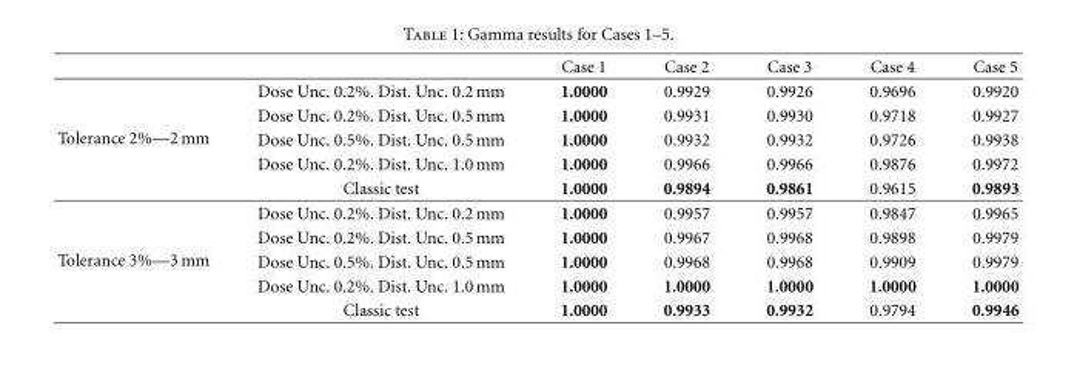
<table><thead><tr><td></td><td></td><td>Case 1</td><td>Case 2</td><td>Case 3</td><td>Case 4</td><td>Case 5</td></tr></thead><tbody><tr><td rowspan="5">Tolerance 2%—2 mm</td><td>Dose Unc. 0.2%. Dist. Unc. 0.2 mm</td><td>1.0000</td><td>0.9929</td><td>0.9926</td><td>0.9696</td><td>0.9920</td></tr><tr><td>Dose Unc. 0.2%. Dist. Unc. 0.5 mm</td><td>1.0000</td><td>0.9931</td><td>0.9930</td><td>0.9718</td><td>0.9927</td></tr><tr><td>Dose Unc. 0.5%. Dist. Unc. 0.5 mm</td><td>1.0000</td><td>0.9932</td><td>0.9932</td><td>0.9726</td><td>0.9938</td></tr><tr><td>Dose Unc. 0.2%. Dist. Unc. 1.0 mm</td><td>1.0000</td><td>0.9966</td><td>0.9966</td><td>0.9876</td><td>0.9972</td></tr><tr><td>Classic test</td><td>1.0000</td><td>0.9894</td><td>0.9861</td><td>0.9615</td><td>0.9893</td></tr><tr><td rowspan="5">Tolerance 3%—3 mm</td><td>Dose Unc. 0.2%. Dist. Unc. 0.2 mm</td><td>1.0000</td><td>0.9957</td><td>0.9957</td><td>0.9847</td><td>0.9965</td></tr><tr><td>Dose Unc. 0.2%. Dist. Unc. 0.5 mm</td><td>1.0000</td><td>0.9967</td><td>0.9968</td><td>0.9898</td><td>0.9979</td></tr><tr><td>Dose Unc. 0.5%. Dist. Unc. 0.5 mm</td><td>1.0000</td><td>0.9968</td><td>0.9968</td><td>0.9909</td><td>0.9979</td></tr><tr><td>Dose Unc. 0.2%. Dist. Unc. 1.0 mm</td><td>1.0000</td><td>1.0000</td><td>1.0000</td><td>1.0000</td><td>1.0000</td></tr><tr><td>Classic test</td><td>1.0000</td><td>0.9933</td><td>0.9932</td><td>0.9794</td><td>0.9946</td></tr></tbody></table>